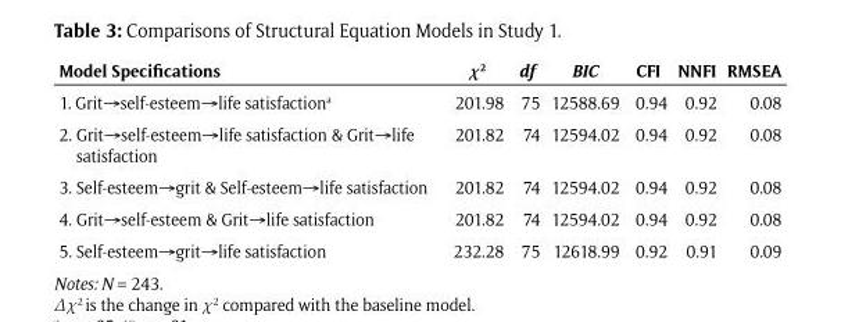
<table><thead><tr><td>Model Specifications</td><td>χ<sup>2</sup></td><td>df</td><td>BIC</td><td>CFI</td><td>NNFI</td><td>RMSEA</td></tr></thead><tbody><tr><td>1. Grit→self-esteem→life satisfaction<sup>a</sup></td><td>201.98</td><td>75</td><td>12588.69</td><td>0.94</td><td>0.92</td><td>0.08</td></tr><tr><td>2. Grit→self-esteem→life satisfaction &amp; Grit→life satisfaction</td><td>201.82</td><td>74</td><td>12594.02</td><td>0.94</td><td>0.92</td><td>0.08</td></tr><tr><td>3. Self-esteem→grit &amp; Self-esteem→life satisfaction</td><td>201.82</td><td>74</td><td>12594.02</td><td>0.94</td><td>0.92</td><td>0.08</td></tr><tr><td>4. Grit→self-esteem &amp; Grit→life satisfaction</td><td>201.82</td><td>74</td><td>12594.02</td><td>0.94</td><td>0.92</td><td>0.08</td></tr><tr><td>5. Self-esteem→grit→life satisfaction</td><td>232.28</td><td>75</td><td>12618.99</td><td>0.92</td><td>0.91</td><td>0.09</td></tr></tbody></table>